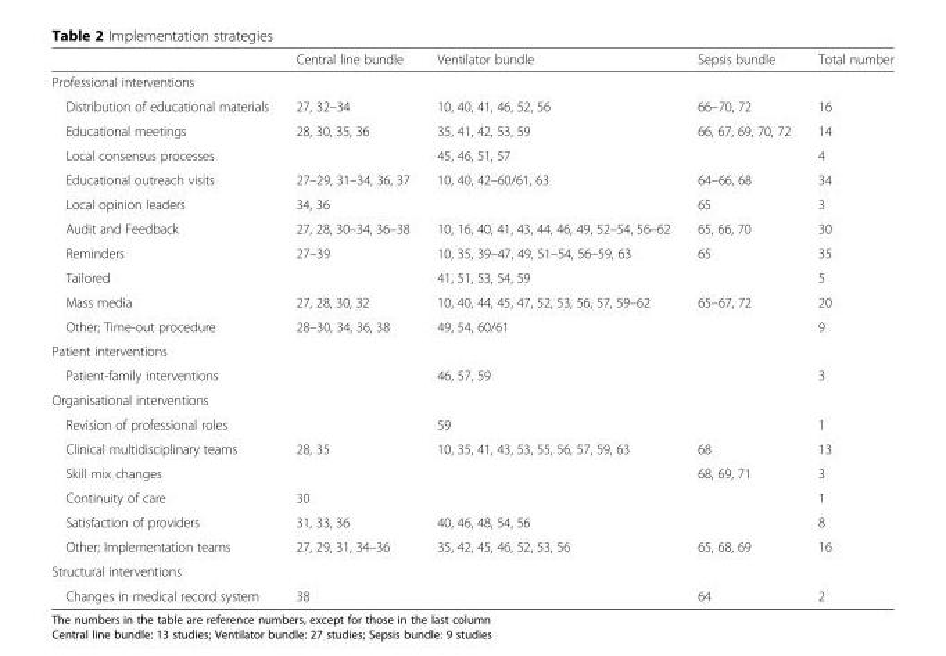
<table><thead><tr><td></td><td>Central line bundle</td><td>Ventilator bundle</td><td>Sepsis bundle</td><td>Total number</td></tr></thead><tbody><tr><td colspan="5">Professional interventions</td></tr><tr><td>Distribution of educational materials</td><td>27, 32–34</td><td>10, 40, 41, 46, 52, 56</td><td>66–70, 72</td><td>16</td></tr><tr><td>Educational meetings</td><td>28, 30, 35, 36</td><td>35, 41, 42, 53, 59</td><td>66, 67, 69, 70, 72</td><td>14</td></tr><tr><td>Local consensus processes</td><td></td><td>45, 46, 51, 57</td><td></td><td>4</td></tr><tr><td>Educational outreach visits</td><td>27–29, 31–34, 36, 37</td><td>10, 40, 42–60/61, 63</td><td>64–66, 68</td><td>34</td></tr><tr><td>Local opinion leaders</td><td>34, 36</td><td></td><td>65</td><td>3</td></tr><tr><td>Audit and Feedback</td><td>27, 28, 30–34, 36–38</td><td>10, 16, 40, 41, 43, 44, 46, 49, 52–54, 56–62</td><td>65, 66, 70</td><td>30</td></tr><tr><td>Reminders</td><td>27–39</td><td>10, 35, 39–47, 49, 51–54, 56–59, 63</td><td>65</td><td>35</td></tr><tr><td>Tailored</td><td></td><td>41, 51, 53, 54, 59</td><td></td><td>5</td></tr><tr><td>Mass media</td><td>27, 28, 30, 32</td><td>10, 40, 44, 45, 47, 52, 53, 56, 57, 59–62</td><td>65–67, 72</td><td>20</td></tr><tr><td>Other; Time-out procedure</td><td>28–30, 34, 36, 38</td><td>49, 54, 60/61</td><td></td><td>9</td></tr><tr><td colspan="5">Patient interventions</td></tr><tr><td>Patient-family interventions</td><td></td><td>46, 57, 59</td><td></td><td>3</td></tr><tr><td colspan="5">Organisational interventions</td></tr><tr><td>Revision of professional roles</td><td></td><td>59</td><td></td><td>1</td></tr><tr><td>Clinical multidisciplinary teams</td><td>28, 35</td><td>10, 35, 41, 43, 53, 55, 56, 57, 59, 63</td><td>68</td><td>13</td></tr><tr><td>Skill mix changes</td><td></td><td></td><td>68, 69, 71</td><td>3</td></tr><tr><td>Continuity of care</td><td>30</td><td></td><td></td><td>1</td></tr><tr><td>Satisfaction of providers</td><td>31, 33, 36</td><td>40, 46, 48, 54, 56</td><td></td><td>8</td></tr><tr><td>Other; Implementation teams</td><td>27, 29, 31, 34–36</td><td>35, 42, 45, 46, 52, 53, 56</td><td>65, 68, 69</td><td>16</td></tr><tr><td colspan="5">Structural interventions</td></tr><tr><td>Changes in medical record system</td><td>38</td><td></td><td>64</td><td>2</td></tr></tbody></table>